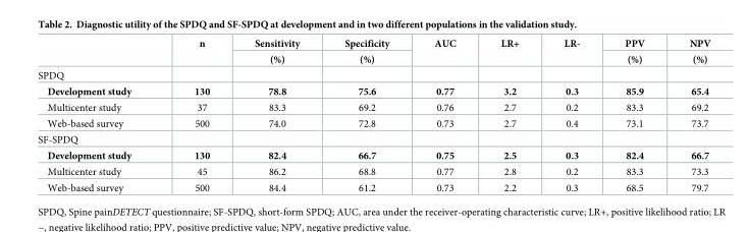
<table><thead><tr><td rowspan="2"></td><td rowspan="2">n</td><td rowspan="2">Sensitivity (%)</td><td rowspan="2">Specificity (%)</td><td rowspan="2">AUC</td><td rowspan="2">LR+</td><td rowspan="2">LR-</td><td rowspan="2">PPV (%)</td><td rowspan="2">NPV (%)</td></tr><tr></tr></thead><tbody><tr><td colspan="9">SPDQ</td></tr><tr><td>Development study</td><td>130</td><td>78.8</td><td>75.6</td><td>0.77</td><td>3.2</td><td>0.3</td><td>85.9</td><td>65.4</td></tr><tr><td>Multicenter study</td><td>37</td><td>83.3</td><td>69.2</td><td>0.76</td><td>2.7</td><td>0.2</td><td>83.3</td><td>69.2</td></tr><tr><td>Web-based survey</td><td>500</td><td>74.0</td><td>72.8</td><td>0.73</td><td>2.7</td><td>0.4</td><td>73.1</td><td>73.7</td></tr><tr><td colspan="9">SF-SPDQ</td></tr><tr><td>Development study</td><td>130</td><td>82.4</td><td>66.7</td><td>0.75</td><td>2.5</td><td>0.3</td><td>82.4</td><td>66.7</td></tr><tr><td>Multicenter study</td><td>45</td><td>86.2</td><td>68.8</td><td>0.77</td><td>2.8</td><td>0.2</td><td>83.3</td><td>73.3</td></tr><tr><td>Web-based survey</td><td>500</td><td>84.4</td><td>61.2</td><td>0.73</td><td>2.2</td><td>0.3</td><td>68.5</td><td>79.7</td></tr></tbody></table>